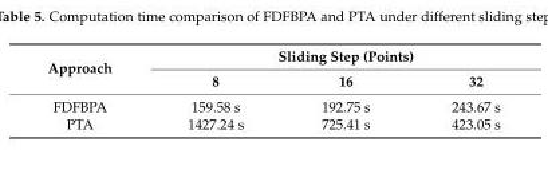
<table><thead><tr><td rowspan="2">Approach</td><td colspan="3">Sliding Step (Points)</td></tr><tr><td>8</td><td>16</td><td>32</td></tr></thead><tbody><tr><td>FDFBPA</td><td>159.58 s</td><td>192.75 s</td><td>243.67 s</td></tr><tr><td>PTA</td><td>1427.24 s</td><td>725.41 s</td><td>423.05 s</td></tr></tbody></table>